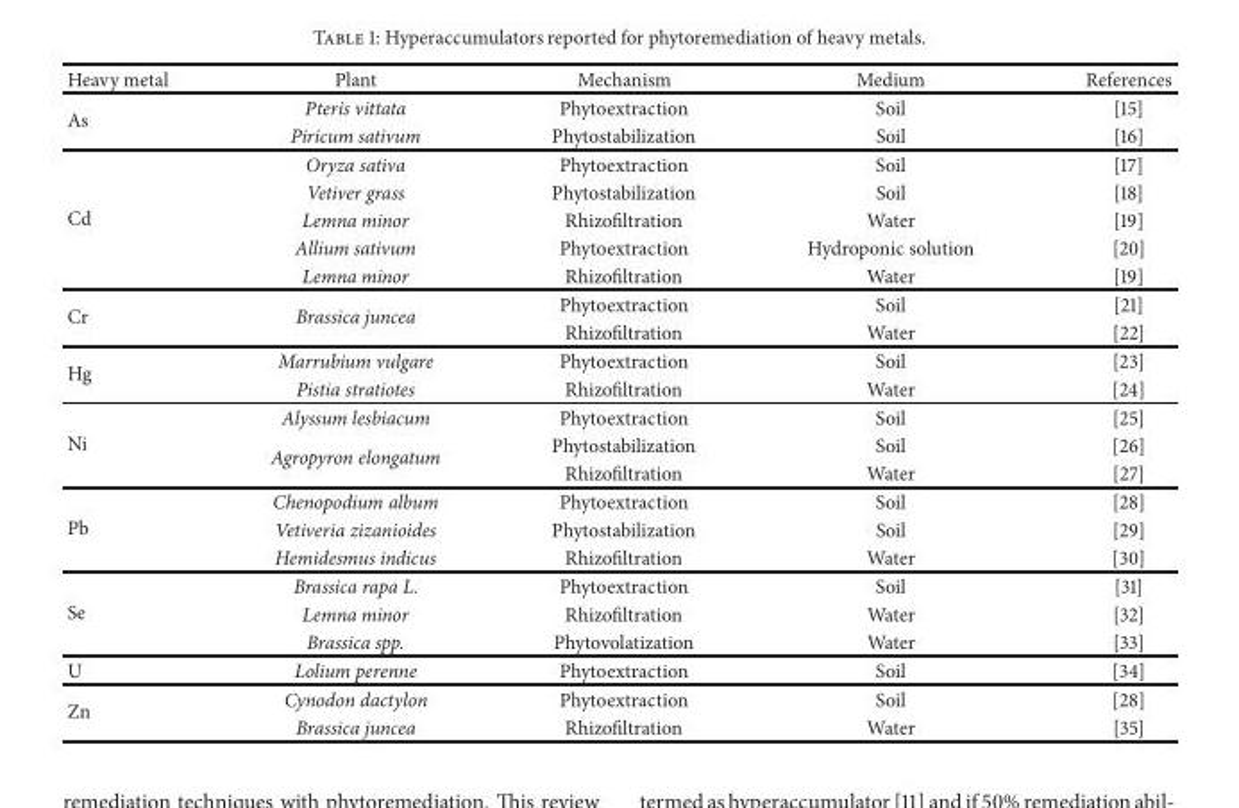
<table><thead><tr><td>Heavy metal</td><td>Plant</td><td>Mechanism</td><td>Medium</td><td>References</td></tr></thead><tbody><tr><td rowspan="2">As</td><td>Pteris vittata</td><td>Phytoextraction</td><td>Soil</td><td>[15]</td></tr><tr><td>Piricum sativum</td><td>Phytostabilization</td><td>Soil</td><td>[16]</td></tr><tr><td rowspan="5">Cd</td><td>Oryza sativa</td><td>Phytoextraction</td><td>Soil</td><td>[17]</td></tr><tr><td>Vetiver grass</td><td>Phytostabilization</td><td>Soil</td><td>[18]</td></tr><tr><td>Lemna minor</td><td>Rhizofiltration</td><td>Water</td><td>[19]</td></tr><tr><td>Allium sativum</td><td>Phytoextraction</td><td>Hydroponic solution</td><td>[20]</td></tr><tr><td>Lemna minor</td><td>Rhizofiltration</td><td>Water</td><td>[19]</td></tr><tr><td rowspan="2">Cr</td><td rowspan="2">Brassica juncea</td><td>Phytoextraction</td><td>Soil</td><td>[21]</td></tr><tr><td>Rhizofiltration</td><td>Water</td><td>[22]</td></tr><tr><td rowspan="2">Hg</td><td>Marrubium vulgare</td><td>Phytoextraction</td><td>Soil</td><td>[23]</td></tr><tr><td>Pistia stratiotes</td><td>Rhizofiltration</td><td>Water</td><td>[24]</td></tr><tr><td rowspan="3">Ni</td><td>Alyssum lesbiacum</td><td>Phytoextraction</td><td>Soil</td><td>[25]</td></tr><tr><td rowspan="2">Agropyron elongatum</td><td>Phytostabilization</td><td>Soil</td><td>[26]</td></tr><tr><td>Rhizofiltration</td><td>Water</td><td>[27]</td></tr><tr><td rowspan="3">Pb</td><td>Chenopodium album</td><td>Phytoextraction</td><td>Soil</td><td>[28]</td></tr><tr><td>Vetiveria zizanioides</td><td>Phytostabilization</td><td>Soil</td><td>[29]</td></tr><tr><td>Hemidesmus indicus</td><td>Rhizofiltration</td><td>Water</td><td>[30]</td></tr><tr><td rowspan="3">Se</td><td>Brassica rapa L.</td><td>Phytoextraction</td><td>Soil</td><td>[31]</td></tr><tr><td>Lemna minor</td><td>Rhizofiltration</td><td>Water</td><td>[32]</td></tr><tr><td>Brassica spp.</td><td>Phytovolatization</td><td>Water</td><td>[33]</td></tr><tr><td>U</td><td>Lolium perenne</td><td>Phytoextraction</td><td>Soil</td><td>[34]</td></tr><tr><td rowspan="2">Zn</td><td>Cynodon dactylon</td><td>Phytoextraction</td><td>Soil</td><td>[28]</td></tr><tr><td>Brassica juncea</td><td>Rhizofiltration</td><td>Water</td><td>[35]</td></tr></tbody></table>